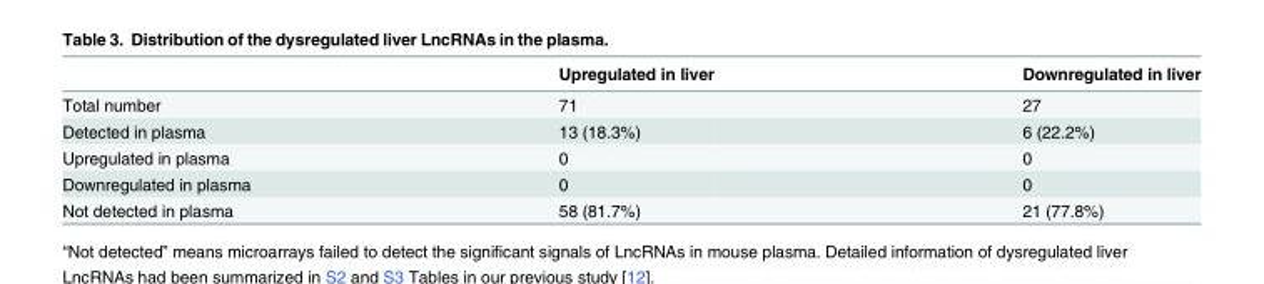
<table><thead><tr><td></td><td>Upregulated in liver</td><td>Downregulated in liver</td></tr></thead><tbody><tr><td>Total number</td><td>71</td><td>27</td></tr><tr><td>Detected in plasma</td><td>13 (18.3%)</td><td>6 (22.2%)</td></tr><tr><td>Upregulated in plasma</td><td>0</td><td>0</td></tr><tr><td>Downregulated in plasma</td><td>0</td><td>0</td></tr><tr><td>Not detected in plasma</td><td>58 (81.7%)</td><td>21 (77.8%)</td></tr></tbody></table>